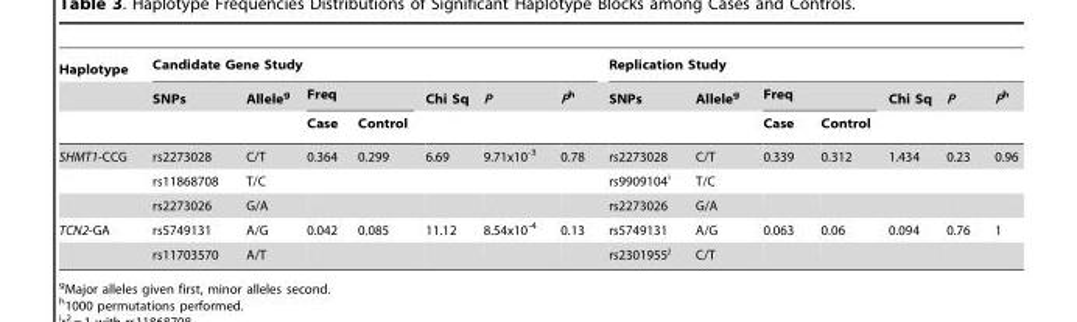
<table><thead><tr><td rowspan="3">Haplotype</td><td colspan="7">Candidate Gene Study</td><td colspan="7">Replication Study</td></tr><tr><td rowspan="2">SNPs</td><td rowspan="2">Allele<sup>g</sup></td><td colspan="2">Freq</td><td rowspan="2">Chi Sq</td><td rowspan="2">P</td><td rowspan="2">Ph</td><td rowspan="2">SNPs</td><td rowspan="2">Allele<sup>g</sup></td><td colspan="2">Freq</td><td rowspan="2">Chi Sq</td><td rowspan="2">P</td><td rowspan="2">Ph</td></tr><tr><td>Case</td><td>Control</td><td>Case</td><td>Control</td></tr></thead><tbody><tr><td rowspan="3">SHMT1-CCG</td><td>rs2273028</td><td>C/T</td><td>0.364</td><td>0.299</td><td>6.69</td><td>9.71x10<sup>-3</sup></td><td>0.78</td><td>rs2273028</td><td>C/T</td><td>0.339</td><td>0.312</td><td>1.434</td><td>0.23</td><td>0.96</td></tr><tr><td>rs11868708</td><td>T/C</td><td></td><td></td><td></td><td></td><td></td><td>rs9909104<sup>i</sup></td><td>T/C</td><td></td><td></td><td></td><td></td><td></td></tr><tr><td>rs2273026</td><td>G/A</td><td></td><td></td><td></td><td></td><td></td><td>rs2273026</td><td>G/A</td><td></td><td></td><td></td><td></td><td></td></tr><tr><td rowspan="2">TCN2-GA</td><td>rs5749131</td><td>A/G</td><td>0.042</td><td>0.085</td><td>11.12</td><td>8.54x10<sup>-4</sup></td><td>0.13</td><td>rs5749131</td><td>A/G</td><td>0.063</td><td>0.06</td><td>0.094</td><td>0.76</td><td>1</td></tr><tr><td>rs11703570</td><td>A/T</td><td></td><td></td><td></td><td></td><td></td><td>rs2301955<sup>j</sup></td><td>C/T</td><td></td><td></td><td></td><td></td><td></td></tr></tbody></table>